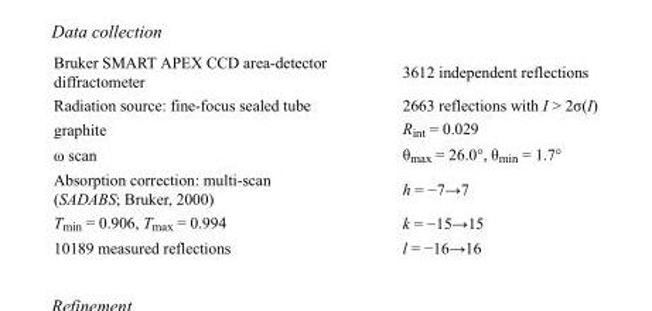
<table><tbody><tr><td>Bruker SMART APEX CCD area-detector diffractometer</td><td>3612 independent reflections</td></tr><tr><td>Radiation source: fine-focus sealed tube</td><td>2663 reflections with I &gt; 2σ(I)</td></tr><tr><td>graphite</td><td>R<sub>int</sub> = 0.029</td></tr><tr><td>ω scan</td><td>θ<sub>max</sub> = 26.0°, θ<sub>min</sub> = 1.7°</td></tr><tr><td>Absorption correction: multi-scan (SADABS; Bruker, 2000)</td><td>h = −7→7</td></tr><tr><td>T<sub>min</sub> = 0.906, T<sub>max</sub> = 0.994</td><td>k = −15→15</td></tr><tr><td>10189 measured reflections</td><td>l = −16→16</td></tr></tbody></table>